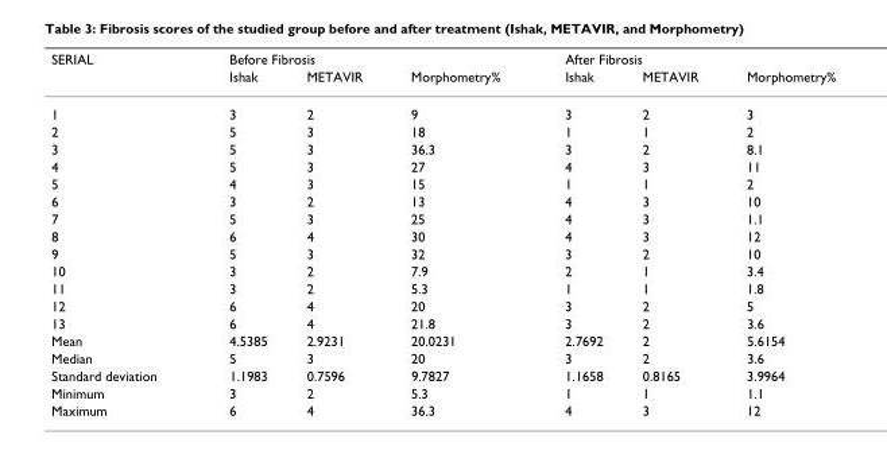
<table><thead><tr><td rowspan="2">SERIAL</td><td colspan="3">Before Fibrosis</td><td colspan="3">After Fibrosis</td></tr><tr><td>Ishak</td><td>METAVIR</td><td>Morphometry%</td><td>Ishak</td><td>METAVIR</td><td>Morphometry%</td></tr></thead><tbody><tr><td>1</td><td>3</td><td>2</td><td>9</td><td>3</td><td>2</td><td>3</td></tr><tr><td>2</td><td>5</td><td>3</td><td>18</td><td>1</td><td>1</td><td>2</td></tr><tr><td>3</td><td>5</td><td>3</td><td>36.3</td><td>3</td><td>2</td><td>8.1</td></tr><tr><td>4</td><td>5</td><td>3</td><td>27</td><td>4</td><td>3</td><td>11</td></tr><tr><td>5</td><td>4</td><td>3</td><td>15</td><td>1</td><td>1</td><td>2</td></tr><tr><td>6</td><td>3</td><td>2</td><td>13</td><td>4</td><td>3</td><td>10</td></tr><tr><td>7</td><td>5</td><td>3</td><td>25</td><td>4</td><td>3</td><td>1.1</td></tr><tr><td>8</td><td>6</td><td>4</td><td>30</td><td>4</td><td>3</td><td>12</td></tr><tr><td>9</td><td>5</td><td>3</td><td>32</td><td>3</td><td>2</td><td>10</td></tr><tr><td>10</td><td>3</td><td>2</td><td>7.9</td><td>2</td><td>1</td><td>3.4</td></tr><tr><td>11</td><td>3</td><td>2</td><td>5.3</td><td>1</td><td>1</td><td>1.8</td></tr><tr><td>12</td><td>6</td><td>4</td><td>20</td><td>3</td><td>2</td><td>5</td></tr><tr><td>13</td><td>6</td><td>4</td><td>21.8</td><td>3</td><td>2</td><td>3.6</td></tr><tr><td>Mean</td><td>4.5385</td><td>2.9231</td><td>20.0231</td><td>2.7692</td><td>2</td><td>5.6154</td></tr><tr><td>Median</td><td>5</td><td>3</td><td>20</td><td>3</td><td>2</td><td>3.6</td></tr><tr><td>Standard deviation</td><td>1.1983</td><td>0.7596</td><td>9.7827</td><td>1.1658</td><td>0.8165</td><td>3.9964</td></tr><tr><td>Minimum</td><td>3</td><td>2</td><td>5.3</td><td>1</td><td>1</td><td>1.1</td></tr><tr><td>Maximum</td><td>6</td><td>4</td><td>36.3</td><td>4</td><td>3</td><td>12</td></tr></tbody></table>